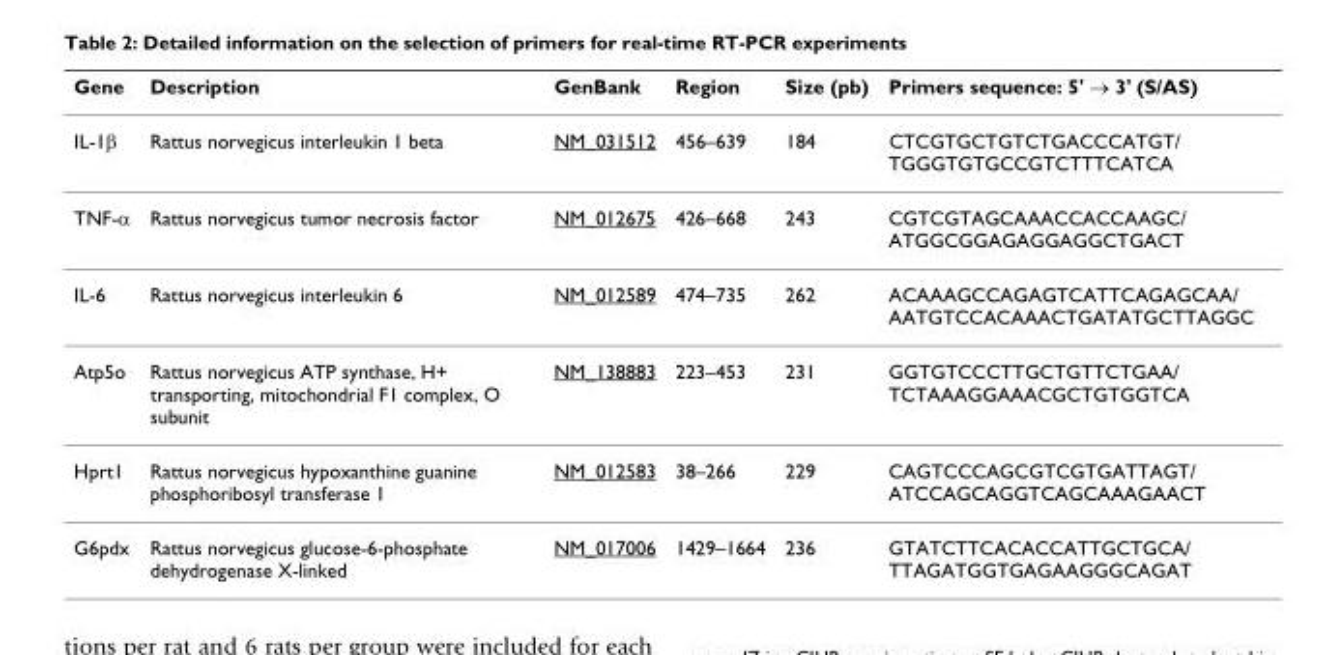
<table><thead><tr><td>Gene</td><td>Description</td><td>GenBank</td><td>Region</td><td>Size (pb)</td><td>Primers sequence: 5&#x27; → 3&#x27; (S/AS)</td></tr></thead><tbody><tr><td>IL-1β</td><td>Rattus norvegicus interleukin 1 beta</td><td>NM_031512</td><td>456–639</td><td>184</td><td>CTCGTGCTGTCTGACCCATGT/ TGGGTGTGCCGTCTTTCATCA</td></tr><tr><td>TNF-α</td><td>Rattus norvegicus tumor necrosis factor</td><td>NM_012675</td><td>426–668</td><td>243</td><td>CGTCGTAGCAAACCACCAAGC/ ATGGCGGAGAGGAGGCTGACT</td></tr><tr><td>IL-6</td><td>Rattus norvegicus interleukin 6</td><td>NM_012589</td><td>474–735</td><td>262</td><td>ACAAAGCCAGAGTCATTCAGAGCAA/ AATGTCCACAAACTGATATGCTTAGGC</td></tr><tr><td>Atp5o</td><td>Rattus norvegicus ATP synthase, H+ transporting, mitochondrial F1 complex, O subunit</td><td>NM_138883</td><td>223–453</td><td>231</td><td>GGTGTCCCTTGCTGTTCTGAA/ TCTAAAGGAAACGCTGTGGTCA</td></tr><tr><td>Hprt1</td><td>Rattus norvegicus hypoxanthine guanine phosphoribosyl transferase 1</td><td>NM_012583</td><td>38–266</td><td>229</td><td>CAGTCCCAGCGTCGTGATTAGT/ ATCCAGCAGGTCAGCAAAGAACT</td></tr><tr><td>G6pdx</td><td>Rattus norvegicus glucose-6-phosphate dehydrogenase X-linked</td><td>NM_017006</td><td>1429–1664</td><td>236</td><td>GTATCTTCACACCATTGCTGCA/ TTAGATGGTGAGAAGGGCAGAT</td></tr></tbody></table>